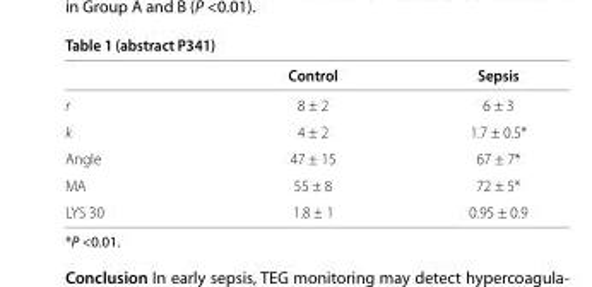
<table><thead><tr><td></td><td>Control</td><td>Sepsis</td></tr></thead><tbody><tr><td>r</td><td>8 ± 2</td><td>6 ± 3</td></tr><tr><td>k</td><td>4 ± 2</td><td>1.7 ± 0.5*</td></tr><tr><td>Angle</td><td>47 ± 15</td><td>67 ± 7*</td></tr><tr><td>MA</td><td>55 ± 8</td><td>72 ± 5*</td></tr><tr><td>LYS 30</td><td>1.8 ± 1</td><td>0.95 ± 0.9</td></tr></tbody></table>